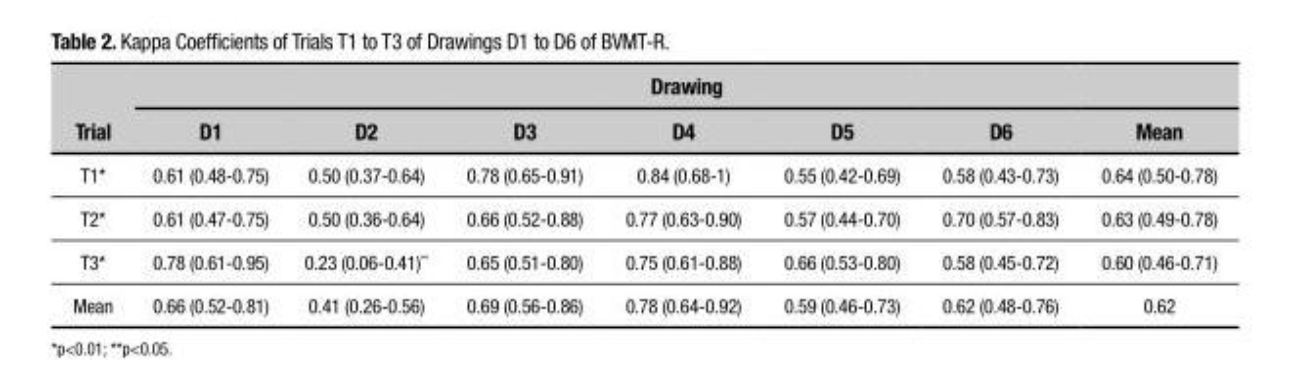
<table><thead><tr><td rowspan="2">Trial</td><td colspan="7">Drawing</td></tr><tr><td>D1</td><td>D2</td><td>D3</td><td>D4</td><td>D5</td><td>D6</td><td>Mean</td></tr></thead><tbody><tr><td>T1*</td><td>0.61 (0.48-0.75)</td><td>0.50 (0.37-0.64)</td><td>0.78 (0.65-0.91)</td><td>0.84 (0.68-1)</td><td>0.55 (0.42-0.69)</td><td>0.58 (0.43-0.73)</td><td>0.64 (0.50-0.78)</td></tr><tr><td>T2*</td><td>0.61 (0.47-0.75)</td><td>0.50 (0.36-0.64)</td><td>0.66 (0.52-0.88)</td><td>0.77 (0.63-0.90)</td><td>0.57 (0.44-0.70)</td><td>0.70 (0.57-0.83)</td><td>0.63 (0.49-0.78)</td></tr><tr><td>T3*</td><td>0.78 (0.61-0.95)</td><td>0.23 (0.06-0.41)**</td><td>0.65 (0.51-0.80)</td><td>0.75 (0.61-0.88)</td><td>0.66 (0.53-0.80)</td><td>0.58 (0.45-0.72)</td><td>0.60 (0.46-0.71)</td></tr><tr><td>Mean</td><td>0.66 (0.52-0.81)</td><td>0.41 (0.26-0.56)</td><td>0.69 (0.56-0.86)</td><td>0.78 (0.64-0.92)</td><td>0.59 (0.46-0.73)</td><td>0.62 (0.48-0.76)</td><td>0.62</td></tr></tbody></table>